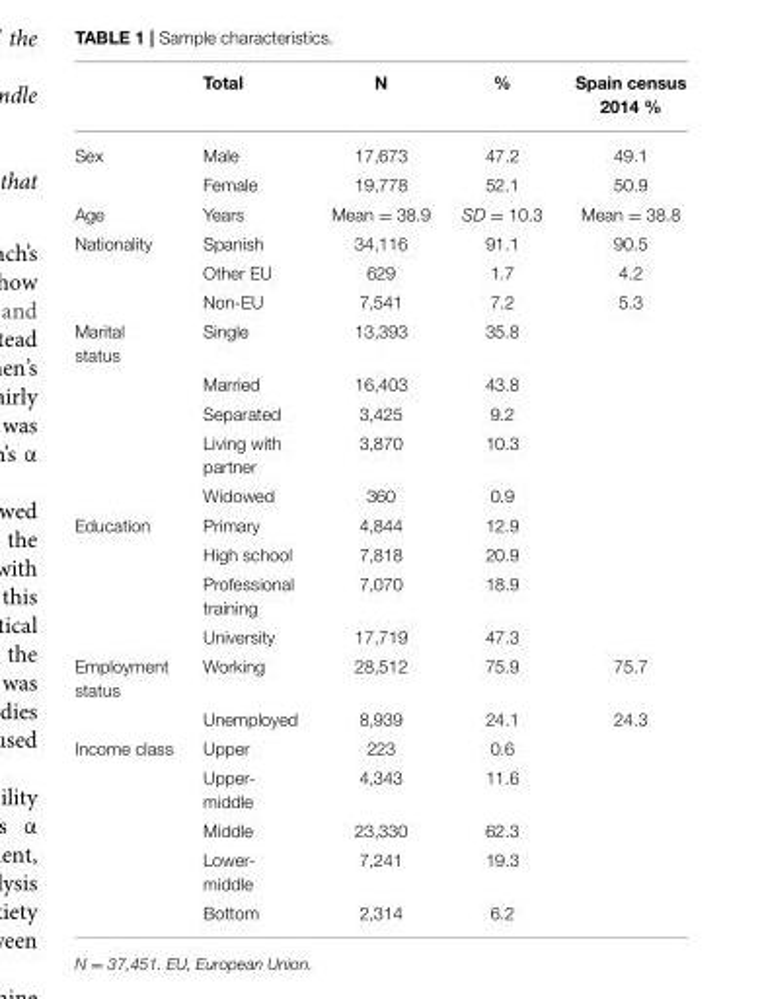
<table><thead><tr><td></td><td>Total</td><td>N</td><td>%</td><td>Spain census 2014 %</td></tr></thead><tbody><tr><td rowspan="2">Sex</td><td>Male</td><td>17,673</td><td>47.2</td><td>49.1</td></tr><tr><td>Female</td><td>19,778</td><td>52.1</td><td>50.9</td></tr><tr><td>Age</td><td>Years</td><td>Mean = 38.9</td><td>SD = 10.3</td><td>Mean = 38.8</td></tr><tr><td rowspan="3">Nationality</td><td>Spanish</td><td>34,116</td><td>91.1</td><td>90.5</td></tr><tr><td>Other EU</td><td>629</td><td>1.7</td><td>4.2</td></tr><tr><td>Non-EU</td><td>7,541</td><td>7.2</td><td>5.3</td></tr><tr><td rowspan="5">Marital status</td><td>Single</td><td>13,393</td><td>35.8</td><td></td></tr><tr><td>Married</td><td>16,403</td><td>43.8</td><td></td></tr><tr><td>Separated</td><td>3,425</td><td>9.2</td><td></td></tr><tr><td>Living with partner</td><td>3,870</td><td>10.3</td><td></td></tr><tr><td>Widowed</td><td>360</td><td>0.9</td><td></td></tr><tr><td rowspan="4">Education</td><td>Primary</td><td>4,844</td><td>12.9</td><td></td></tr><tr><td>High school</td><td>7,818</td><td>20.9</td><td></td></tr><tr><td>Professional training</td><td>7,070</td><td>18.9</td><td></td></tr><tr><td>University</td><td>17,719</td><td>47.3</td><td></td></tr><tr><td rowspan="2">Employment status</td><td>Working</td><td>28,512</td><td>75.9</td><td>75.7</td></tr><tr><td>Unemployed</td><td>8,939</td><td>24.1</td><td>24.3</td></tr><tr><td rowspan="5">Income class</td><td>Upper</td><td>223</td><td>0.6</td><td></td></tr><tr><td>Upper- middle</td><td>4,343</td><td>11.6</td><td></td></tr><tr><td>Middle</td><td>23,330</td><td>62.3</td><td></td></tr><tr><td>Lower- middle</td><td>7,241</td><td>19.3</td><td></td></tr><tr><td>Bottom</td><td>2,314</td><td>6.2</td><td></td></tr></tbody></table>